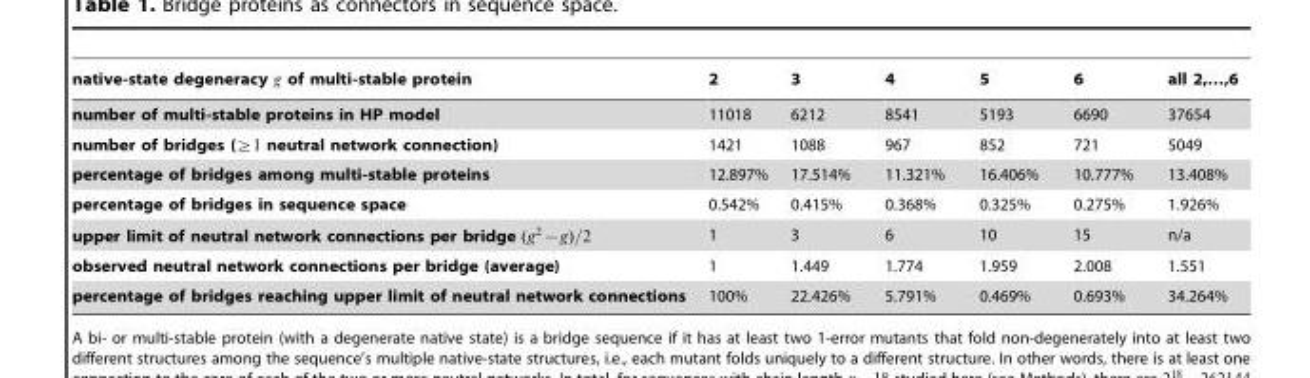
<table><thead><tr><td>native-state degeneracy g of multi-stable protein</td><td>2</td><td>3</td><td>4</td><td>5</td><td>6</td><td>all 2,…,6</td></tr></thead><tbody><tr><td>number of multi-stable proteins in HP model</td><td>11018</td><td>6212</td><td>8541</td><td>5193</td><td>6690</td><td>37654</td></tr><tr><td>number of bridges (§1 neutral network connection)</td><td>1421</td><td>1088</td><td>967</td><td>852</td><td>721</td><td>5049</td></tr><tr><td>percentage of bridges among multi-stable proteins</td><td>12.897%</td><td>17.514%</td><td>11.321%</td><td>16.406%</td><td>10.777%</td><td>13.408%</td></tr><tr><td>percentage of bridges in sequence space</td><td>0.542%</td><td>0.415%</td><td>0.368%</td><td>0.325%</td><td>0.275%</td><td>1.926%</td></tr><tr><td>upper limit of neutral network connections per bridge (g2{g)=2</td><td>1</td><td>3</td><td>6</td><td>10</td><td>15</td><td>n/a</td></tr><tr><td>observed neutral network connections per bridge (average)</td><td>1</td><td>1.449</td><td>1.774</td><td>1.959</td><td>2.008</td><td>1.551</td></tr><tr><td>percentage of bridges reaching upper limit of neutral network connections</td><td>100%</td><td>22.426%</td><td>5.791%</td><td>0.469%</td><td>0.693%</td><td>34.264%</td></tr></tbody></table>